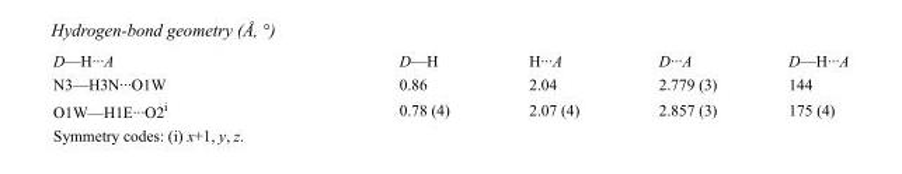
<table><tbody><tr><td>D—H···A</td><td>D—H</td><td>H···A</td><td>D···A</td><td>D—H···A</td></tr><tr><td>N3—H3N···O1W</td><td>0.86</td><td>2.04</td><td>2.779 (3)</td><td>144</td></tr><tr><td>O1W—H1E···O2<sup>i</sup></td><td>0.78 (4)</td><td>2.07 (4)</td><td>2.857 (3)</td><td>175 (4)</td></tr></tbody></table>